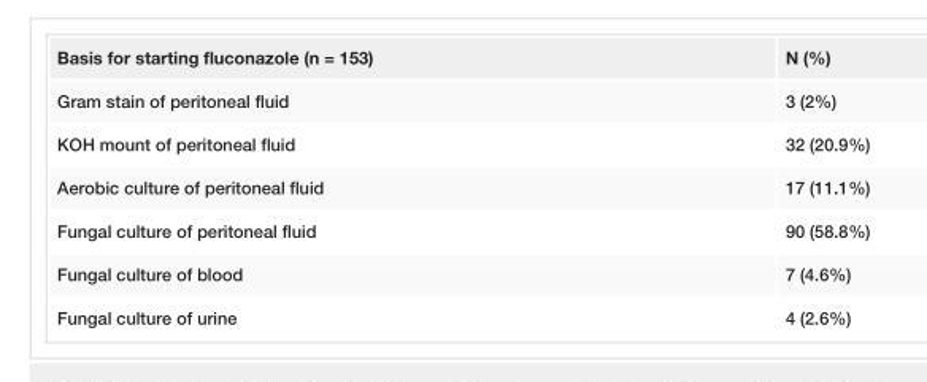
<table><tbody><tr><td>Basis for starting fluconazole (n = 153)</td><td>N (%)</td></tr><tr><td>Gram stain of peritoneal fluid</td><td>3 (2%)</td></tr><tr><td>KOH mount of peritoneal fluid</td><td>32 (20.9%)</td></tr><tr><td>Aerobic culture of peritoneal fluid</td><td>17 (11.1%)</td></tr><tr><td>Fungal culture of peritoneal fluid</td><td>90 (58.8%)</td></tr><tr><td>Fungal culture of blood</td><td>7 (4.6%)</td></tr><tr><td>Fungal culture of urine</td><td>4 (2.6%)</td></tr></tbody></table>